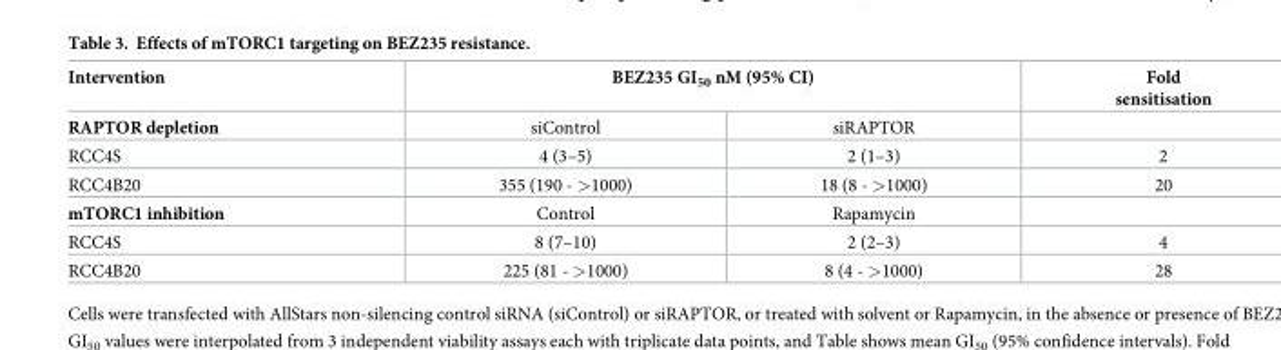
<table><thead><tr><td rowspan="2">Intervention RAPTOR depletion</td><td colspan="2">BEZ235 GI<sub>50</sub> nM (95% CI)</td><td rowspan="2">Fold sensitisation</td></tr><tr><td>siControl</td><td>siRAPTOR</td></tr></thead><tbody><tr><td>RCC4S</td><td>4 (3–5)</td><td>2 (1–3)</td><td>2</td></tr><tr><td>RCC4B20</td><td>355 (190 - &gt;1000)</td><td>18 (8 - &gt;1000)</td><td>20</td></tr><tr><td>mTORC1 inhibition</td><td>Control</td><td>Rapamycin</td><td></td></tr><tr><td>RCC4S</td><td>8 (7–10)</td><td>2 (2–3)</td><td>4</td></tr><tr><td>RCC4B20</td><td>225 (81 - &gt;1000)</td><td>8 (4 - &gt;1000)</td><td>28</td></tr></tbody></table>